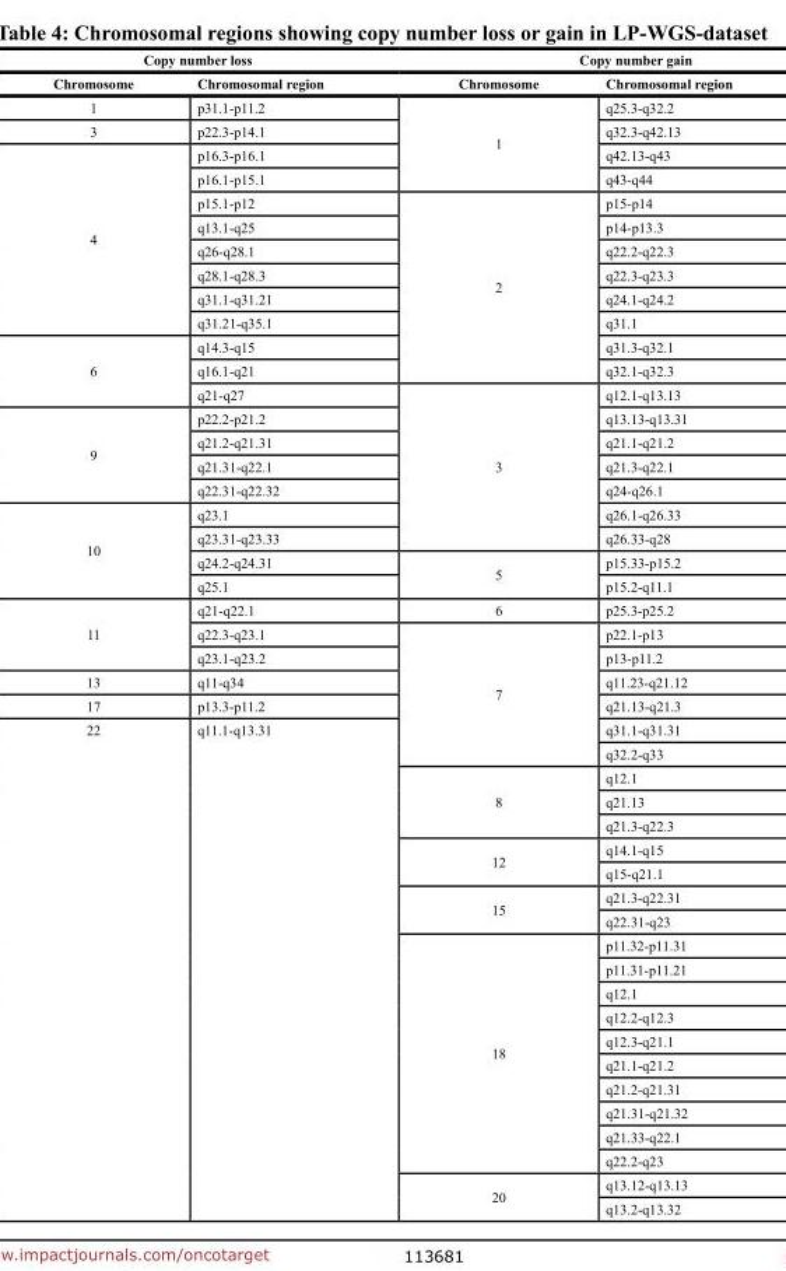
<table><thead><tr><td colspan="2">Copy number loss</td><td colspan="2">Copy number gain</td></tr><tr><td>Chromosome</td><td>Chromosomal region</td><td>Chromosome</td><td>Chromosomal region</td></tr></thead><tbody><tr><td>1</td><td>p31.1-p11.2</td><td rowspan="4">1</td><td>q25.3-q32.2</td></tr><tr><td>3</td><td>p22.3-p14.1</td><td>q32.3-q42.13</td></tr><tr><td rowspan="8">4</td><td>p16.3-p16.1</td><td>q42.13-q43</td></tr><tr><td>p16.1-p15.1</td><td>q43-q44</td></tr><tr><td>p15.1-p12</td><td rowspan="8">2</td><td>p15-p14</td></tr><tr><td>q13.1-q25</td><td>p14-p13.3</td></tr><tr><td>q26-q28.1</td><td>q22.2-q22.3</td></tr><tr><td>q28.1-q28.3</td><td>q22.3-q23.3</td></tr><tr><td>q31.1-q31.21</td><td>q24.1-q24.2</td></tr><tr><td>q31.21-q35.1</td><td>q31.1</td></tr><tr><td rowspan="3">6</td><td>q14.3-q15</td><td>q31.3-q32.1</td></tr><tr><td>q16.1-q21</td><td>q32.1-q32.3</td></tr><tr><td>q21-q27</td><td rowspan="7">3</td><td>q12.1-q13.13</td></tr><tr><td rowspan="4">9</td><td>p22.2-p21.2</td><td>q13.13-q13.31</td></tr><tr><td>q21.2-q21.31</td><td>q21.1-q21.2</td></tr><tr><td>q21.31-q22.1</td><td>q21.3-q22.1</td></tr><tr><td>q22.31-q22.32</td><td>q24-q26.1</td></tr><tr><td rowspan="4">10</td><td>q23.1</td><td>q26.1-q26.33</td></tr><tr><td>q23.31-q23.33</td><td>q26.33-q28</td></tr><tr><td>q24.2-q24.31</td><td rowspan="2">5</td><td>p15.33-p15.2</td></tr><tr><td>q25.1</td><td>p15.2-q11.1</td></tr><tr><td rowspan="3">11</td><td>q21-q22.1</td><td>6</td><td>p25.3-p25.2</td></tr><tr><td>q22.3-q23.1</td><td rowspan="6">7</td><td>p22.1-p13</td></tr><tr><td>q23.1-q23.2</td><td>p13-p11.2</td></tr><tr><td>13</td><td>q11-q34</td><td>q11.23-q21.12</td></tr><tr><td>17</td><td>p13.3-p11.2</td><td>q21.13-q21.3</td></tr><tr><td rowspan="21">22</td><td rowspan="21">q11.1-q13.31</td><td>q31.1-q31.31</td></tr><tr><td>q32.2-q33</td></tr><tr><td rowspan="3">8</td><td>q12.1</td></tr><tr><td>q21.13</td></tr><tr><td>q21.3-q22.3</td></tr><tr><td rowspan="2">12</td><td>q14.1-q15</td></tr><tr><td>q15-q21.1</td></tr><tr><td rowspan="2">15</td><td>q21.3-q22.31</td></tr><tr><td>q22.31-q23</td></tr><tr><td rowspan="10">18</td><td>p11.32-p11.31</td></tr><tr><td>p11.31-p11.21</td></tr><tr><td>q12.1</td></tr><tr><td>q12.2-q12.3</td></tr><tr><td>q12.3-q21.1</td></tr><tr><td>q21.1-q21.2</td></tr><tr><td>q21.2-q21.31</td></tr><tr><td>q21.31-q21.32</td></tr><tr><td>q21.33-q22.1</td></tr><tr><td>q22.2-q23</td></tr><tr><td rowspan="2">20</td><td>q13.12-q13.13</td></tr><tr><td>q13.2-q13.32</td></tr></tbody></table>